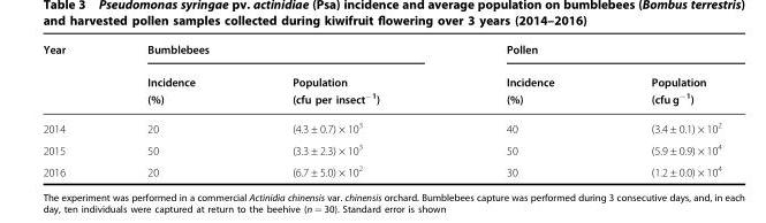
<table><thead><tr><td rowspan="2">Year</td><td colspan="2">Bumblebees</td><td colspan="2">Pollen</td></tr><tr><td>Incidence (%)</td><td>Population (cfu per insect<sup>−1</sup>)</td><td>Incidence (%)</td><td>Population (cfu g<sup>−1</sup>)</td></tr></thead><tbody><tr><td>2014</td><td>20</td><td>(4.3 ± 0.7) × 10<sup>3</sup></td><td>40</td><td>(3.4 ± 0.1) × 10<sup>2</sup></td></tr><tr><td>2015</td><td>50</td><td>(3.3 ± 2.3) × 10<sup>3</sup></td><td>50</td><td>(5.9 ± 0.9) × 10<sup>4</sup></td></tr><tr><td>2016</td><td>20</td><td>(6.7 ± 5.0) × 10<sup>2</sup></td><td>30</td><td>(1.2 ± 0.0) × 10<sup>4</sup></td></tr></tbody></table>